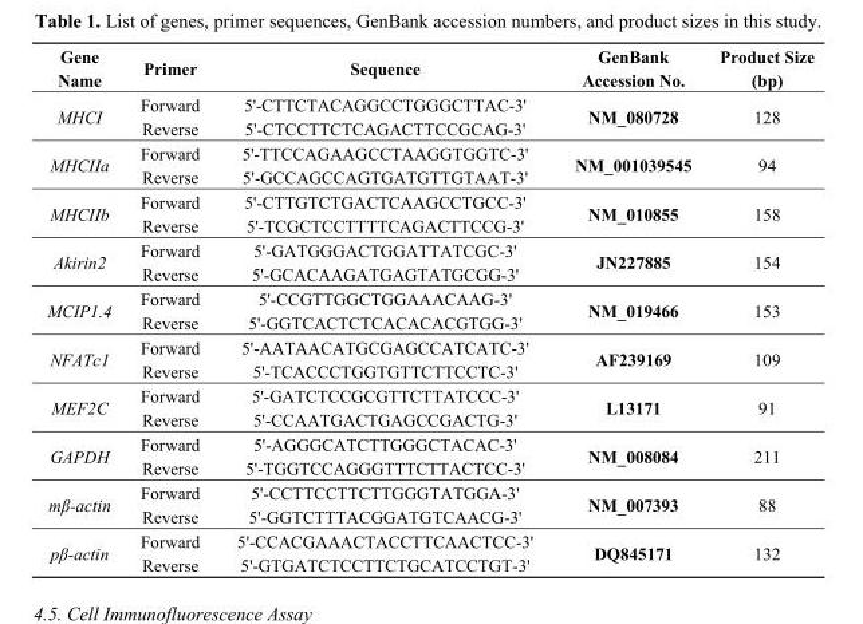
<table><thead><tr><td>Gene Name</td><td>Primer</td><td>Sequence</td><td>GenBank Accession No.</td><td>Product Size (bp)</td></tr></thead><tbody><tr><td rowspan="2">MHCI</td><td>Forward</td><td>5&#x27;-CTTCTACAGGCCTGGGCTTAC-3&#x27;</td><td rowspan="2">NM_080728</td><td rowspan="2">128</td></tr><tr><td>Reverse</td><td>5&#x27;-CTCCTTCTCAGACTTCCGCAG-3&#x27;</td></tr><tr><td rowspan="2">MHCIIa</td><td>Forward</td><td>5&#x27;-TTCCAGAAGCCTAAGGTGGTC-3&#x27;</td><td rowspan="2">NM_001039545</td><td rowspan="2">94</td></tr><tr><td>Reverse</td><td>5&#x27;-GCCAGCCAGTGATGTTGTAAT-3&#x27;</td></tr><tr><td rowspan="2">MHCIIb</td><td>Forward</td><td>5&#x27;-CTTGTCTGACTCAAGCCTGCC-3&#x27;</td><td rowspan="2">NM_010855</td><td rowspan="2">158</td></tr><tr><td>Reverse</td><td>5&#x27;-TCGCTCCTTTTCAGACTTCCG-3&#x27;</td></tr><tr><td rowspan="2">Akirin2</td><td>Forward</td><td>5&#x27;-GATGGGACTGGATTATCGC-3&#x27;</td><td rowspan="2">JN227885</td><td rowspan="2">154</td></tr><tr><td>Reverse</td><td>5&#x27;-GCACAAGATGAGTATGCGG-3&#x27;</td></tr><tr><td rowspan="2">MCIP1.4</td><td>Forward</td><td>5&#x27;-CCGTTGGCTGGAAACAAG-3&#x27;</td><td rowspan="2">NM_019466</td><td rowspan="2">153</td></tr><tr><td>Reverse</td><td>5&#x27;-GGTCACTCTCACACACGTGG-3&#x27;</td></tr><tr><td rowspan="2">NFATc1</td><td>Forward</td><td>5&#x27;-AATAACATGCGAGCCATCATC-3&#x27;</td><td rowspan="2">AF239169</td><td rowspan="2">109</td></tr><tr><td>Reverse</td><td>5&#x27;-TCACCCTGGTGTTCTTCCTC-3&#x27;</td></tr><tr><td rowspan="2">MEF2C</td><td>Forward</td><td>5&#x27;-GATCTCCGCGTTCTTATCCC-3&#x27;</td><td rowspan="2">L13171</td><td rowspan="2">91</td></tr><tr><td>Reverse</td><td>5&#x27;-CCAATGACTGAGCCGACTG-3&#x27;</td></tr><tr><td rowspan="2">GAPDH</td><td>Forward</td><td>5&#x27;-AGGGCATCTTGGGCTACAC-3&#x27;</td><td rowspan="2">NM_008084</td><td rowspan="2">211</td></tr><tr><td>Reverse</td><td>5&#x27;-TGGTCCAGGGTTTCTTACTCC-3&#x27;</td></tr><tr><td rowspan="2">mβ-actin</td><td>Forward</td><td>5&#x27;-CCTTCCTTCTTGGGTATGGA-3&#x27;</td><td rowspan="2">NM_007393</td><td rowspan="2">88</td></tr><tr><td>Reverse</td><td>5&#x27;-GGTCTTTACGGATGTCAACG-3&#x27;</td></tr><tr><td rowspan="2">pβ-actin</td><td>Forward</td><td>5&#x27;-CCACGAAACTACCTTCAACTCC-3&#x27;</td><td rowspan="2">DQ845171</td><td rowspan="2">132</td></tr><tr><td>Reverse</td><td>5&#x27;-GTGATCTCCTTCTGCATCCTGT-3&#x27;</td></tr></tbody></table>